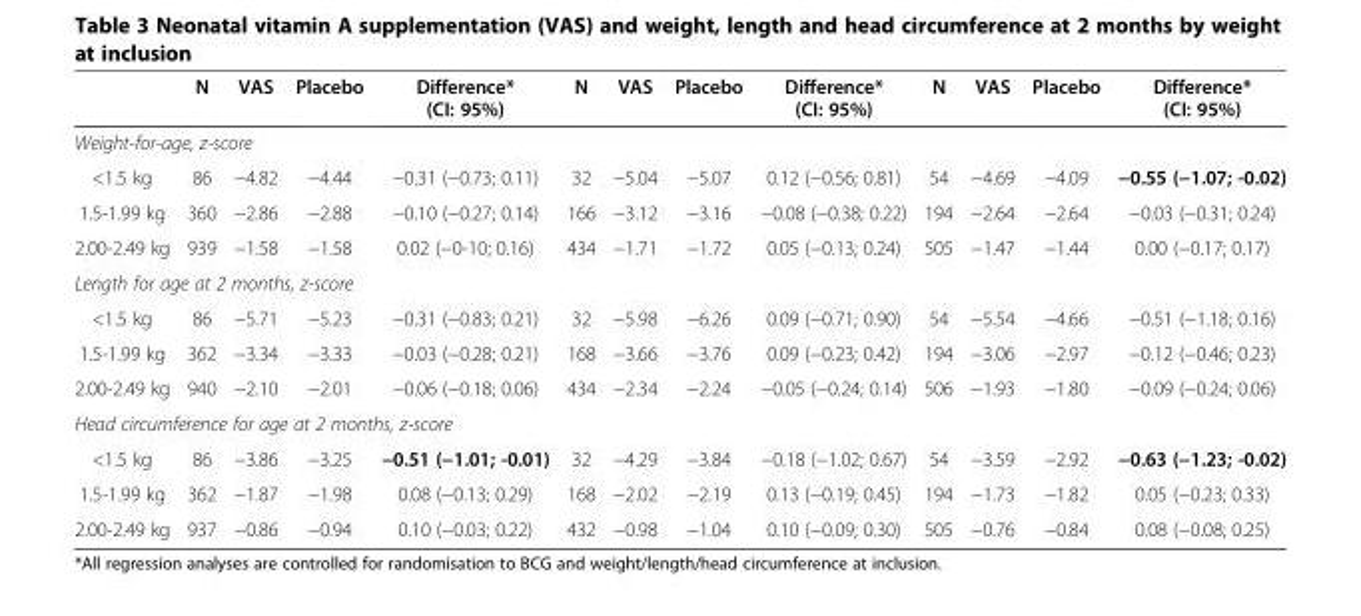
<table><thead><tr><td></td><td>N</td><td>VAS</td><td>Placebo</td><td>Difference* (CI: 95%)</td><td>N</td><td>VAS</td><td>Placebo</td><td>Difference* (CI: 95%)</td><td>N</td><td>VAS</td><td>Placebo</td><td>Difference* (CI: 95%)</td></tr></thead><tbody><tr><td colspan="13">Weight-for-age, z-score</td></tr><tr><td>&lt;1.5 kg</td><td>86</td><td>−4.82</td><td>−4.44</td><td>−0.31 (−0.73; 0.11)</td><td>32</td><td>−5.04</td><td>−5.07</td><td>0.12 (−0.56; 0.81)</td><td>54</td><td>−4.69</td><td>−4.09</td><td>−0.55 (−1.07; -0.02)</td></tr><tr><td>1.5-1.99 kg</td><td>360</td><td>−2.86</td><td>−2.88</td><td>−0.10 (−0.27; 0.14)</td><td>166</td><td>−3.12</td><td>−3.16</td><td>−0.08 (−0.38; 0.22)</td><td>194</td><td>−2.64</td><td>−2.64</td><td>−0.03 (−0.31; 0.24)</td></tr><tr><td>2.00-2.49 kg</td><td>939</td><td>−1.58</td><td>−1.58</td><td>0.02 (−0-10; 0.16)</td><td>434</td><td>−1.71</td><td>−1.72</td><td>0.05 (−0.13; 0.24)</td><td>505</td><td>−1.47</td><td>−1.44</td><td>0.00 (−0.17; 0.17)</td></tr><tr><td colspan="13">Length for age at 2 months, z-score</td></tr><tr><td>&lt;1.5 kg</td><td>86</td><td>−5.71</td><td>−5.23</td><td>−0.31 (−0.83; 0.21)</td><td>32</td><td>−5.98</td><td>−6.26</td><td>0.09 (−0.71; 0.90)</td><td>54</td><td>−5.54</td><td>−4.66</td><td>−0.51 (−1.18; 0.16)</td></tr><tr><td>1.5-1.99 kg</td><td>362</td><td>−3.34</td><td>−3.33</td><td>−0.03 (−0.28; 0.21)</td><td>168</td><td>−3.66</td><td>−3.76</td><td>0.09 (−0.23; 0.42)</td><td>194</td><td>−3.06</td><td>−2.97</td><td>−0.12 (−0.46; 0.23)</td></tr><tr><td>2.00-2.49 kg</td><td>940</td><td>−2.10</td><td>−2.01</td><td>−0.06 (−0.18; 0.06)</td><td>434</td><td>−2.34</td><td>−2.24</td><td>−0.05 (−0.24; 0.14)</td><td>506</td><td>−1.93</td><td>−1.80</td><td>−0.09 (−0.24; 0.06)</td></tr><tr><td colspan="13">Head circumference for age at 2 months, z-score</td></tr><tr><td>&lt;1.5 kg</td><td>86</td><td>−3.86</td><td>−3.25</td><td>−0.51 (−1.01; -0.01)</td><td>32</td><td>−4.29</td><td>−3.84</td><td>−0.18 (−1.02; 0.67)</td><td>54</td><td>−3.59</td><td>−2.92</td><td>−0.63 (−1.23; -0.02)</td></tr><tr><td>1.5-1.99 kg</td><td>362</td><td>−1.87</td><td>−1.98</td><td>0.08 (−0.13; 0.29)</td><td>168</td><td>−2.02</td><td>−2.19</td><td>0.13 (−0.19; 0.45)</td><td>194</td><td>−1.73</td><td>−1.82</td><td>0.05 (−0.23; 0.33)</td></tr><tr><td>2.00-2.49 kg</td><td>937</td><td>−0.86</td><td>−0.94</td><td>0.10 (−0.03; 0.22)</td><td>432</td><td>−0.98</td><td>−1.04</td><td>0.10 (−0.09; 0.30)</td><td>505</td><td>−0.76</td><td>−0.84</td><td>0.08 (−0.08; 0.25)</td></tr></tbody></table>